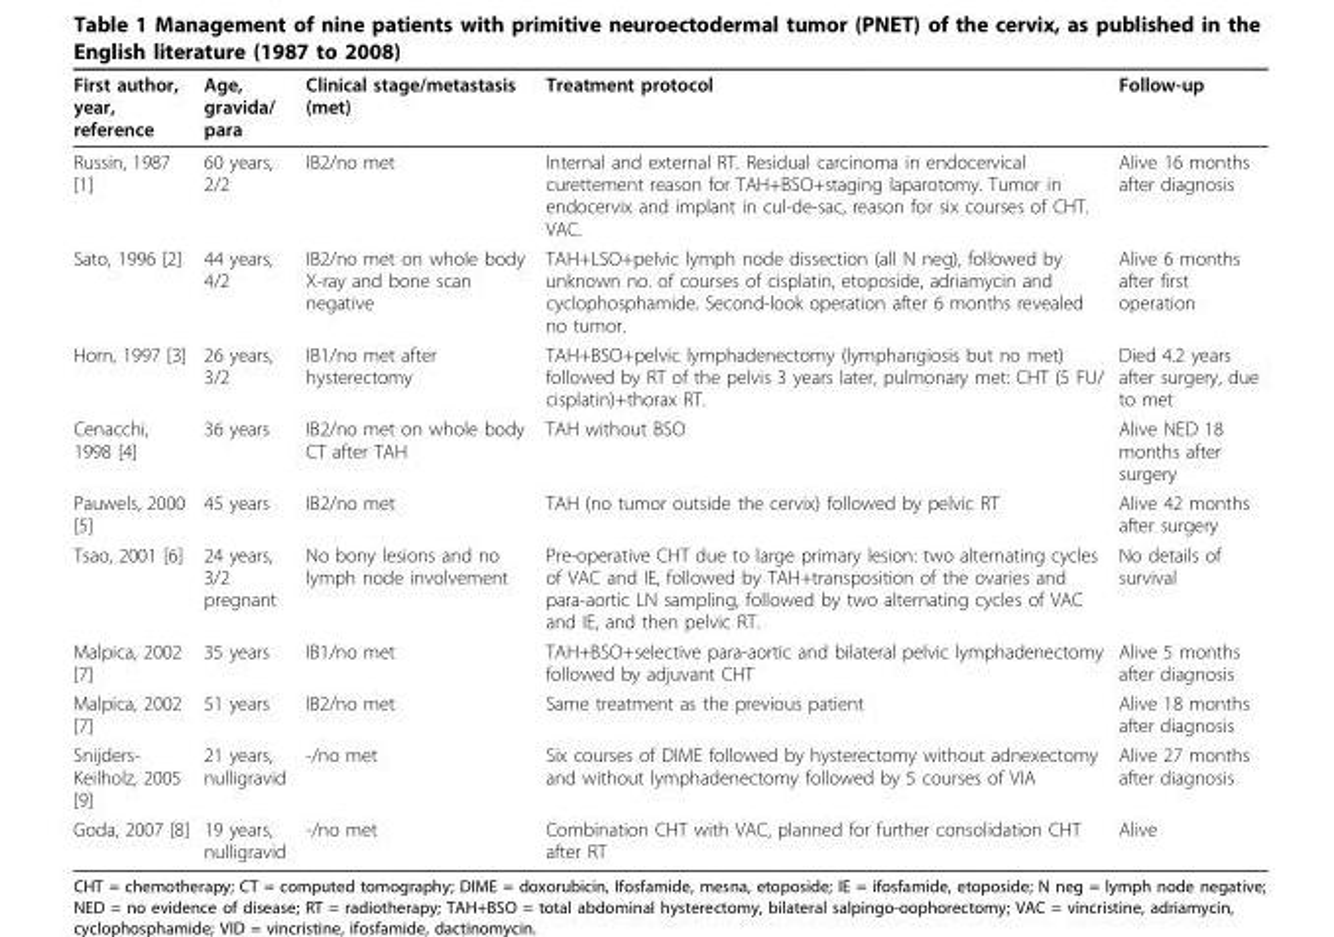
<table><thead><tr><td>First author, year, reference</td><td>Age, gravida/ para</td><td>Clinical stage/metastasis (met)</td><td>Treatment protocol</td><td>Follow-up</td></tr></thead><tbody><tr><td>Russin, 1987 [1]</td><td>60 years, 2/2</td><td>IB2/no met</td><td>Internal and external RT. Residual carcinoma in endocervical curettement reason for TAH+BSO+staging laparotomy. Tumor in endocervix and implant in cul-de-sac, reason for six courses of CHT. VAC.</td><td>Alive 16 months after diagnosis</td></tr><tr><td>Sato, 1996 [2]</td><td>44 years, 4/2</td><td>IB2/no met on whole body X-ray and bone scan negative</td><td>TAH+LSO+pelvic lymph node dissection (all N neg), followed by unknown no. of courses of cisplatin, etoposide, adriamycin and cyclophosphamide. Second-look operation after 6 months revealed no tumor.</td><td>Alive 6 months after first operation</td></tr><tr><td>Horn, 1997 [3]</td><td>26 years, 3/2</td><td>IB1/no met after hysterectomy</td><td>TAH+BSO+pelvic lymphadenectomy (lymphangiosis but no met) followed by RT of the pelvis 3 years later, pulmonary met: CHT (5 FU/ cisplatin)+thorax RT.</td><td>Died 4.2 years after surgery, due to met</td></tr><tr><td>Cenacchi, 1998 [4]</td><td>36 years</td><td>IB2/no met on whole body CT after TAH</td><td>TAH without BSO</td><td>Alive NED 18 months after surgery</td></tr><tr><td>Pauwels, 2000 [5]</td><td>45 years</td><td>IB2/no met</td><td>TAH (no tumor outside the cervix) followed by pelvic RT</td><td>Alive 42 months after surgery</td></tr><tr><td>Tsao, 2001 [6]</td><td>24 years, 3/2 pregnant</td><td>No bony lesions and no lymph node involvement</td><td>Pre-operative CHT due to large primary lesion: two alternating cycles of VAC and IE, followed by TAH+transposition of the ovaries and para-aortic LN sampling, followed by two alternating cycles of VAC and IE, and then pelvic RT.</td><td>No details of survival</td></tr><tr><td>Malpica, 2002 [7]</td><td>35 years</td><td>IB1/no met</td><td>TAH+BSO+selective para-aortic and bilateral pelvic lymphadenectomy followed by adjuvant CHT</td><td>Alive 5 months after diagnosis</td></tr><tr><td>Malpica, 2002 [7]</td><td>51 years</td><td>IB2/no met</td><td>Same treatment as the previous patient</td><td>Alive 18 months after diagnosis</td></tr><tr><td>Snijders- Keilholz, 2005 [9]</td><td>21 years, nulligravid</td><td>-/no met</td><td>Six courses of DIME followed by hysterectomy without adnexectomy and without lymphadenectomy followed by 5 courses of VIA</td><td>Alive 27 months after diagnosis</td></tr><tr><td>Goda, 2007 [8]</td><td>19 years, nulligravid</td><td>-/no met</td><td>Combination CHT with VAC, planned for further consolidation CHT after RT</td><td>Alive</td></tr></tbody></table>